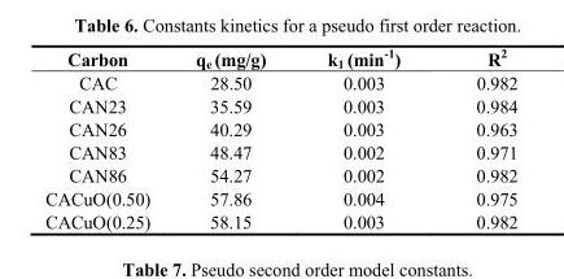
<table><thead><tr><td>Carbon</td><td>q<sub>e</sub> (mg/g)</td><td>k<sub>1</sub> (min<sup>-1</sup>)</td><td>R<sup>2</sup></td></tr></thead><tbody><tr><td>CAC</td><td>28.50</td><td>0.003</td><td>0.982</td></tr><tr><td>CAN23</td><td>35.59</td><td>0.003</td><td>0.984</td></tr><tr><td>CAN26</td><td>40.29</td><td>0.003</td><td>0.963</td></tr><tr><td>CAN83</td><td>48.47</td><td>0.002</td><td>0.971</td></tr><tr><td>CAN86</td><td>54.27</td><td>0.002</td><td>0.982</td></tr><tr><td>CACuO(0.50)</td><td>57.86</td><td>0.004</td><td>0.975</td></tr><tr><td>CACuO(0.25)</td><td>58.15</td><td>0.003</td><td>0.982</td></tr></tbody></table>